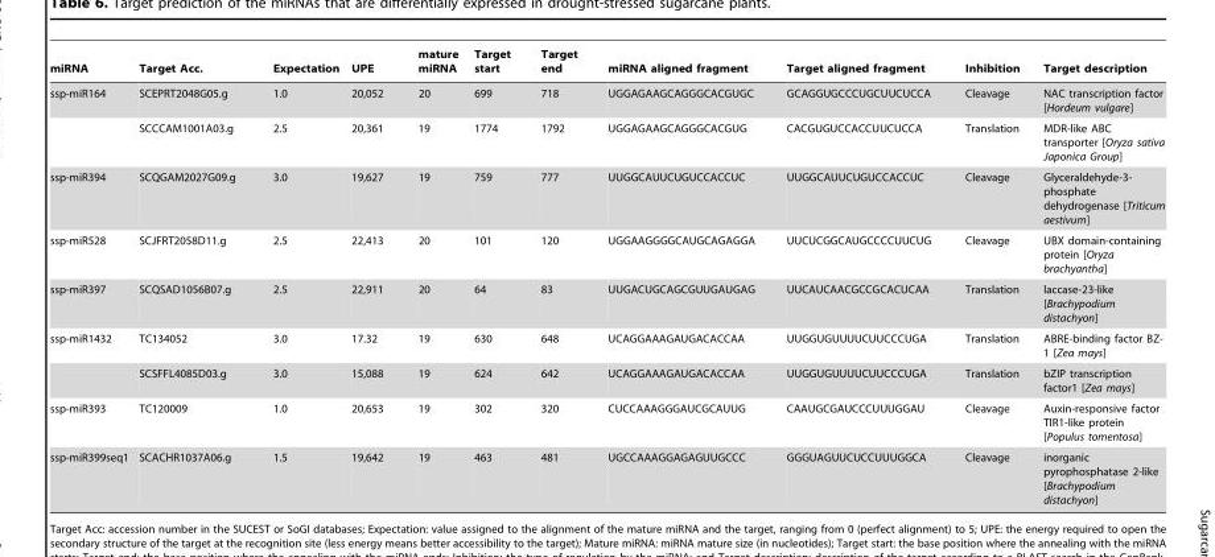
<table><thead><tr><td>miRNA</td><td>Target Acc.</td><td>Expectation</td><td>UPE</td><td>mature miRNA</td><td>Target start</td><td>Target end</td><td>miRNA aligned fragment</td><td>Target aligned fragment</td><td>Inhibition</td><td>Target description</td></tr></thead><tbody><tr><td rowspan="2">ssp-miR164</td><td>SCEPRT2048G05.g</td><td>1.0</td><td>20,052</td><td>20</td><td>699</td><td>718</td><td>UGGAGAAGCAGGGCACGUGC</td><td>GCAGGUGCCCUGCUUCUCCA</td><td>Cleavage</td><td>NAC transcription factor [Hordeum vulgare]</td></tr><tr><td>SCCCAM1001A03.g</td><td>2.5</td><td>20,361</td><td>19</td><td>1774</td><td>1792</td><td>UGGAGAAGCAGGGCACGUG</td><td>CACGUGUCCACCUUCUCCA</td><td>Translation</td><td>MDR-like ABC transporter [Oryza sativa Japonica Group]</td></tr><tr><td>ssp-miR394</td><td>SCQGAM2027G09.g</td><td>3.0</td><td>19,627</td><td>19</td><td>759</td><td>777</td><td>UUGGCAUUCUGUCCACCUC</td><td>UUGGCAUUCUGUCCACCUC</td><td>Cleavage</td><td>Glyceraldehyde-3- phosphate dehydrogenase [Triticum aestivum]</td></tr><tr><td>ssp-miR528</td><td>SCJFRT2058D11.g</td><td>2.5</td><td>22,413</td><td>20</td><td>101</td><td>120</td><td>UGGAAGGGGCAUGCAGAGGA</td><td>UUCUCGGCAUGCCCCUUCUG</td><td>Cleavage</td><td>UBX domain-containing protein [Oryza brachyantha]</td></tr><tr><td>ssp-miR397</td><td>SCQSAD1056B07.g</td><td>2.5</td><td>22,911</td><td>20</td><td>64</td><td>83</td><td>UUGACUGCAGCGUUGAUGAG</td><td>UUCAUCAACGCCGCACUCAA</td><td>Translation</td><td>laccase-23-like [Brachypodium distachyon]</td></tr><tr><td rowspan="2">ssp-miR1432</td><td>TC134052</td><td>3.0</td><td>17.32</td><td>19</td><td>630</td><td>648</td><td>UCAGGAAAGAUGACACCAA</td><td>UUGGUGUUUUCUUCCCUGA</td><td>Translation</td><td>ABRE-binding factor BZ- 1 [Zea mays]</td></tr><tr><td>SCSFFL4085D03.g</td><td>3.0</td><td>15,088</td><td>19</td><td>624</td><td>642</td><td>UCAGGAAAGAUGACACCAA</td><td>UUGGUGUUUUCUUCCCUGA</td><td>Translation</td><td>bZIP transcription factor1 [Zea mays]</td></tr><tr><td>ssp-miR393</td><td>TC120009</td><td>1.0</td><td>20,653</td><td>19</td><td>302</td><td>320</td><td>CUCCAAAGGGAUCGCAUUG</td><td>CAAUGCGAUCCCUUUGGAU</td><td>Cleavage</td><td>Auxin-responsive factor TIR1-like protein [Populus tomentosa]</td></tr><tr><td>ssp-miR399seq1</td><td>SCACHR1037A06.g</td><td>1.5</td><td>19,642</td><td>19</td><td>463</td><td>481</td><td>UGCCAAAGGAGAGUUGCCC</td><td>GGGUAGUUCUCCUUUGGCA</td><td>Cleavage</td><td>inorganic pyrophosphatase 2-like [Brachypodium distachyon]</td></tr></tbody></table>